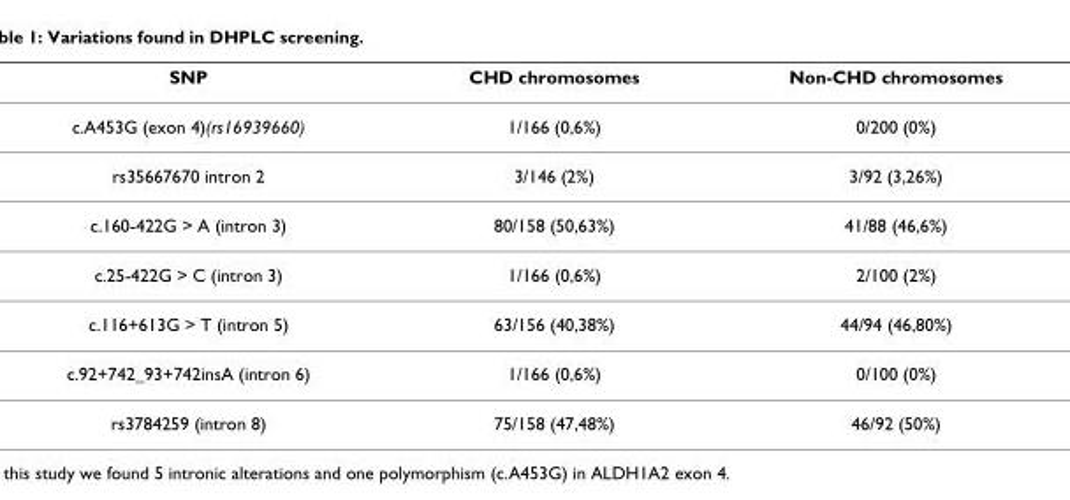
<table><thead><tr><td>SNP</td><td>CHD chromosomes</td><td>Non-CHD chromosomes</td></tr></thead><tbody><tr><td>c.A453G (exon 4)(rs16939660)</td><td>1/166 (0,6%)</td><td>0/200 (0%)</td></tr><tr><td>rs35667670 intron 2</td><td>3/146 (2%)</td><td>3/92 (3,26%)</td></tr><tr><td>c.160-422G &gt; A (intron 3)</td><td>80/158 (50,63%)</td><td>41/88 (46,6%)</td></tr><tr><td>c.25-422G &gt; C (intron 3)</td><td>1/166 (0,6%)</td><td>2/100 (2%)</td></tr><tr><td>c.116+613G &gt; T (intron 5)</td><td>63/156 (40,38%)</td><td>44/94 (46,80%)</td></tr><tr><td>c.92+742_93+742insA (intron 6)</td><td>1/166 (0,6%)</td><td>0/100 (0%)</td></tr><tr><td>rs3784259 (intron 8)</td><td>75/158 (47,48%)</td><td>46/92 (50%)</td></tr></tbody></table>